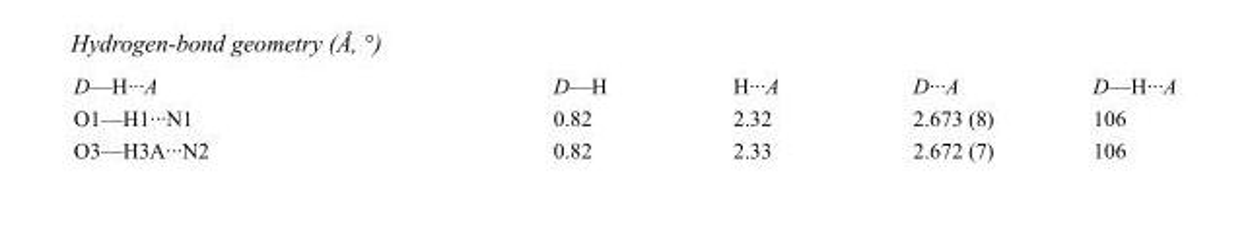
<table><tbody><tr><td>D—H···A</td><td>D—H</td><td>H···A</td><td>D···A</td><td>D—H···A</td></tr><tr><td>O1—H1···N1</td><td>0.82</td><td>2.32</td><td>2.673 (8)</td><td>106</td></tr><tr><td>O3—H3A···N2</td><td>0.82</td><td>2.33</td><td>2.672 (7)</td><td>106</td></tr></tbody></table>